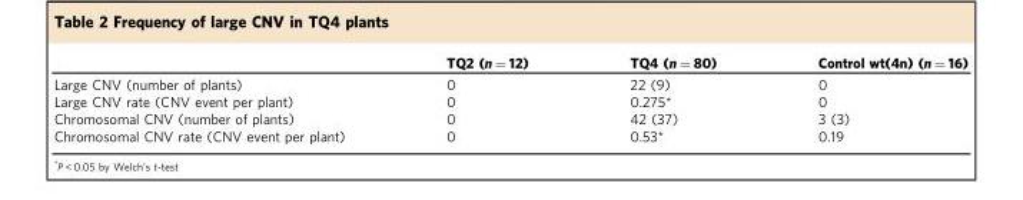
<table><thead><tr><td></td><td>TQ2 (n = 12)</td><td>TQ4 (n = 80)</td><td>Control wt(4n) (n = 16)</td></tr></thead><tbody><tr><td>Large CNV (number of plants)</td><td>0</td><td>22 (9)</td><td>0</td></tr><tr><td>Large CNV rate (CNV event per plant)</td><td>0</td><td>0.275*</td><td>0</td></tr><tr><td>Chromosomal CNV (number of plants)</td><td>0</td><td>42 (37)</td><td>3 (3)</td></tr><tr><td>Chromosomal CNV rate (CNV event per plant)</td><td>0</td><td>0.53*</td><td>0.19</td></tr></tbody></table>